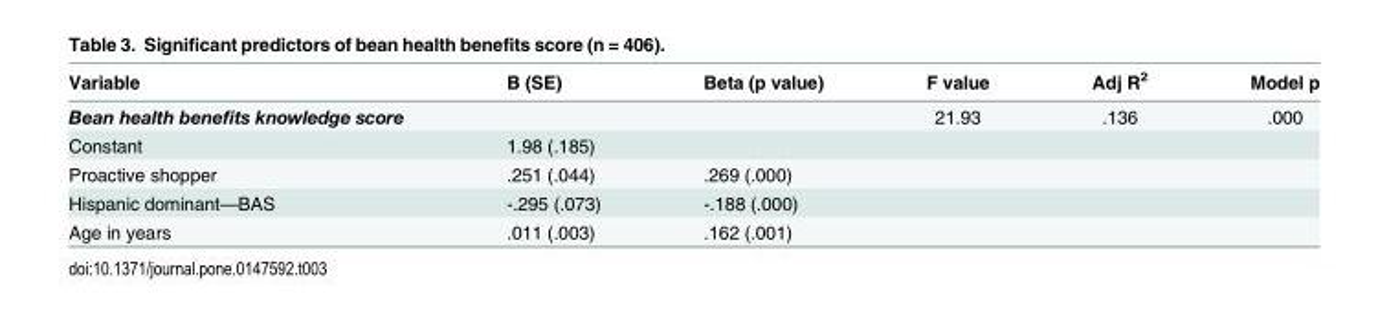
<table><thead><tr><td>Variable</td><td>B (SE)</td><td>Beta (p value)</td><td>F value</td><td>Adj R<sup>2</sup></td><td>Model p</td></tr></thead><tbody><tr><td>Bean health benefits knowledge score</td><td></td><td></td><td>21.93</td><td>.136</td><td>.000</td></tr><tr><td>Constant</td><td>1.98 (.185)</td><td></td><td></td><td></td><td></td></tr><tr><td>Proactive shopper</td><td>.251 (.044)</td><td>.269 (.000)</td><td></td><td></td><td></td></tr><tr><td>Hispanic dominant—BAS</td><td>-.295 (.073)</td><td>-.188 (.000)</td><td></td><td></td><td></td></tr><tr><td>Age in years</td><td>.011 (.003)</td><td>.162 (.001)</td><td></td><td></td><td></td></tr></tbody></table>